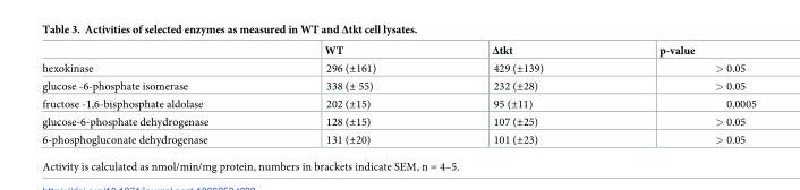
<table><thead><tr><td></td><td>WT</td><td>Δtkt</td><td>p-value</td></tr></thead><tbody><tr><td>hexokinase</td><td>296 (±161)</td><td>429 (±139)</td><td>&gt; 0.05</td></tr><tr><td>glucose -6-phosphate isomerase</td><td>338 (± 55)</td><td>232 (±28)</td><td>&gt; 0.05</td></tr><tr><td>fructose -1,6-bisphosphate aldolase</td><td>202 (±15)</td><td>95 (±11)</td><td>0.0005</td></tr><tr><td>glucose-6-phosphate dehydrogenase</td><td>128 (±15)</td><td>107 (±25)</td><td>&gt; 0.05</td></tr><tr><td>6-phosphogluconate dehydrogenase</td><td>131 (±20)</td><td>101 (±23)</td><td>&gt; 0.05</td></tr></tbody></table>